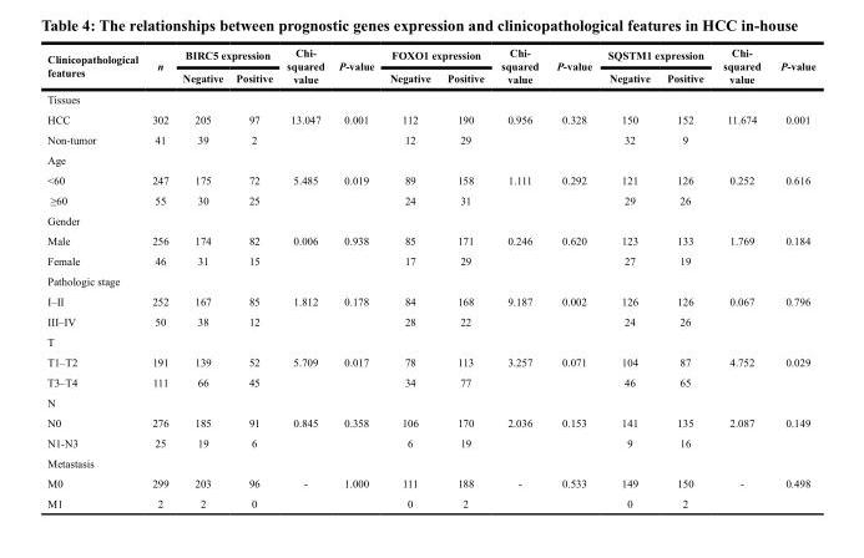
<table><thead><tr><td rowspan="2">Clinicopathological features</td><td rowspan="2">n</td><td colspan="2">BIRC5 expression</td><td rowspan="2">Chi- squared value</td><td rowspan="2">P-value</td><td colspan="2">FOXO1 expression</td><td rowspan="2">Chi- squared value</td><td rowspan="2">P-value</td><td colspan="2">SQSTM1 expression</td><td rowspan="2">Chi- squared value</td><td rowspan="2">P-value</td></tr><tr><td>Negative</td><td>Positive</td><td>Negative</td><td>Positive</td><td>Negative</td><td>Positive</td></tr></thead><tbody><tr><td colspan="14">Tissues</td></tr><tr><td>HCC</td><td>302</td><td>205</td><td>97</td><td rowspan="2">13.047</td><td rowspan="2">0.001</td><td>112</td><td>190</td><td rowspan="2">0.956</td><td rowspan="2">0.328</td><td>150</td><td>152</td><td rowspan="2">11.674</td><td rowspan="2">0.001</td></tr><tr><td>Non-tumor</td><td>41</td><td>39</td><td>2</td><td>12</td><td>29</td><td>32</td><td>9</td></tr><tr><td colspan="14">Age</td></tr><tr><td>&lt;60</td><td>247</td><td>175</td><td>72</td><td rowspan="2">5.485</td><td rowspan="2">0.019</td><td>89</td><td>158</td><td rowspan="2">1.111</td><td rowspan="2">0.292</td><td>121</td><td>126</td><td rowspan="2">0.252</td><td rowspan="2">0.616</td></tr><tr><td>≥60</td><td>55</td><td>30</td><td>25</td><td>24</td><td>31</td><td>29</td><td>26</td></tr><tr><td colspan="14">Gender</td></tr><tr><td>Male</td><td>256</td><td>174</td><td>82</td><td rowspan="2">0.006</td><td rowspan="2">0.938</td><td>85</td><td>171</td><td rowspan="2">0.246</td><td rowspan="2">0.620</td><td>123</td><td>133</td><td rowspan="2">1.769</td><td rowspan="2">0.184</td></tr><tr><td>Female</td><td>46</td><td>31</td><td>15</td><td>17</td><td>29</td><td>27</td><td>19</td></tr><tr><td colspan="14">Pathologic stage</td></tr><tr><td>I–II</td><td>252</td><td>167</td><td>85</td><td rowspan="2">1.812</td><td rowspan="2">0.178</td><td>84</td><td>168</td><td rowspan="2">9.187</td><td rowspan="2">0.002</td><td>126</td><td>126</td><td rowspan="2">0.067</td><td rowspan="2">0.796</td></tr><tr><td>III–IV</td><td>50</td><td>38</td><td>12</td><td>28</td><td>22</td><td>24</td><td>26</td></tr><tr><td colspan="14">T</td></tr><tr><td>T1–T2</td><td>191</td><td>139</td><td>52</td><td rowspan="2">5.709</td><td rowspan="2">0.017</td><td>78</td><td>113</td><td rowspan="2">3.257</td><td rowspan="2">0.071</td><td>104</td><td>87</td><td rowspan="2">4.752</td><td rowspan="2">0.029</td></tr><tr><td>T3–T4</td><td>111</td><td>66</td><td>45</td><td>34</td><td>77</td><td>46</td><td>65</td></tr><tr><td colspan="14">N</td></tr><tr><td>N0</td><td>276</td><td>185</td><td>91</td><td rowspan="2">0.845</td><td rowspan="2">0.358</td><td>106</td><td>170</td><td rowspan="2">2.036</td><td rowspan="2">0.153</td><td>141</td><td>135</td><td rowspan="2">2.087</td><td rowspan="2">0.149</td></tr><tr><td>N1-N3</td><td>25</td><td>19</td><td>6</td><td>6</td><td>19</td><td>9</td><td>16</td></tr><tr><td colspan="14">Metastasis</td></tr><tr><td>M0</td><td>299</td><td>203</td><td>96</td><td rowspan="2">-</td><td rowspan="2">1.000</td><td>111</td><td>188</td><td rowspan="2">-</td><td rowspan="2">0.533</td><td>149</td><td>150</td><td rowspan="2">-</td><td rowspan="2">0.498</td></tr><tr><td>M1</td><td>2</td><td>2</td><td>0</td><td>0</td><td>2</td><td>0</td><td>2</td></tr></tbody></table>